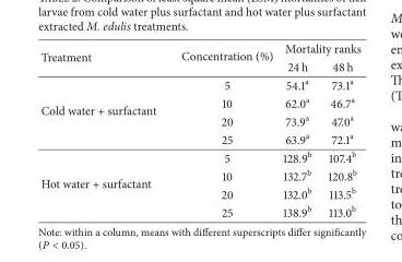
<table><thead><tr><td rowspan="2">Treatment</td><td rowspan="2">Concentration (%)</td><td colspan="2">Mortality ranks</td></tr><tr><td>24 h</td><td>48 h</td></tr></thead><tbody><tr><td rowspan="4">Cold water + surfactant</td><td>5</td><td>54.1<sup>a</sup></td><td>73.1<sup>a</sup></td></tr><tr><td>10</td><td>62.0<sup>a</sup></td><td>46.7<sup>a</sup></td></tr><tr><td>20</td><td>73.9<sup>a</sup></td><td>47.0<sup>a</sup></td></tr><tr><td>25</td><td>63.9<sup>a</sup></td><td>72.1<sup>a</sup></td></tr><tr><td rowspan="4">Hot water + surfactant</td><td>5</td><td>128.9<sup>b</sup></td><td>107.4<sup>b</sup></td></tr><tr><td>10</td><td>132.7<sup>b</sup></td><td>120.8<sup>b</sup></td></tr><tr><td>20</td><td>132.0<sup>b</sup></td><td>113.5<sup>b</sup></td></tr><tr><td>25</td><td>138.9<sup>b</sup></td><td>113.0<sup>b</sup></td></tr></tbody></table>